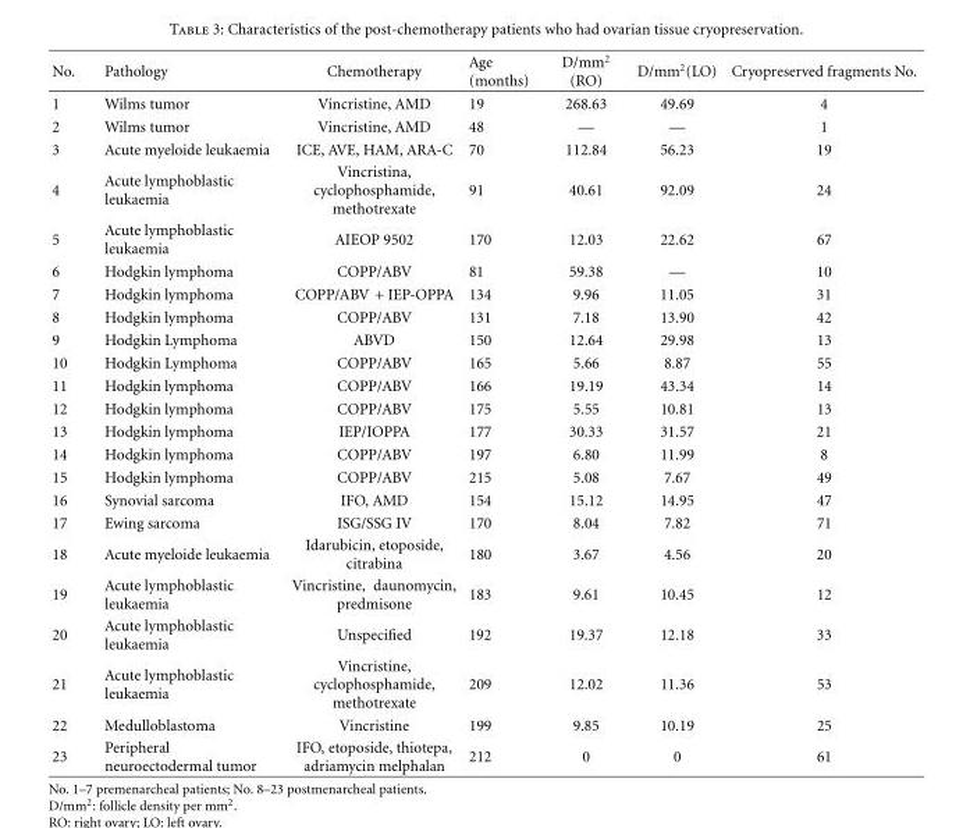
<table><thead><tr><td>No.</td><td>Pathology</td><td>Chemotherapy</td><td>Age (months)</td><td>D/mm<sup>2</sup> (RO)</td><td>D/mm<sup>2</sup>(LO)</td><td>Cryopreserved fragments No.</td></tr></thead><tbody><tr><td>1</td><td>Wilms tumor</td><td>Vincristine, AMD</td><td>19</td><td>268.63</td><td>49.69</td><td>4</td></tr><tr><td>2</td><td>Wilms tumor</td><td>Vincristine, AMD</td><td>48</td><td>—</td><td>—</td><td>1</td></tr><tr><td>3</td><td>Acute myeloide leukaemia</td><td>ICE, AVE, HAM, ARA-C</td><td>70</td><td>112.84</td><td>56.23</td><td>19</td></tr><tr><td>4</td><td>Acute lymphoblastic leukaemia</td><td>Vincristina, cyclophosphamide, methotrexate</td><td>91</td><td>40.61</td><td>92.09</td><td>24</td></tr><tr><td>5</td><td>Acute lymphoblastic leukaemia</td><td>AIEOP 9502</td><td>170</td><td>12.03</td><td>22.62</td><td>67</td></tr><tr><td>6</td><td>Hodgkin lymphoma</td><td>COPP/ABV</td><td>81</td><td>59.38</td><td>—</td><td>10</td></tr><tr><td>7</td><td>Hodgkin lymphoma</td><td>COPP/ABV + IEP-OPPA</td><td>134</td><td>9.96</td><td>11.05</td><td>31</td></tr><tr><td>8</td><td>Hodgkin lymphoma</td><td>COPP/ABV</td><td>131</td><td>7.18</td><td>13.90</td><td>42</td></tr><tr><td>9</td><td>Hodgkin Lymphoma</td><td>ABVD</td><td>150</td><td>12.64</td><td>29.98</td><td>13</td></tr><tr><td>10</td><td>Hodgkin Lymphoma</td><td>COPP/ABV</td><td>165</td><td>5.66</td><td>8.87</td><td>55</td></tr><tr><td>11</td><td>Hodgkin lymphoma</td><td>COPP/ABV</td><td>166</td><td>19.19</td><td>43.34</td><td>14</td></tr><tr><td>12</td><td>Hodgkin lymphoma</td><td>COPP/ABV</td><td>175</td><td>5.55</td><td>10.81</td><td>13</td></tr><tr><td>13</td><td>Hodgkin lymphoma</td><td>IEP/IOPPA</td><td>177</td><td>30.33</td><td>31.57</td><td>21</td></tr><tr><td>14</td><td>Hodgkin lymphoma</td><td>COPP/ABV</td><td>197</td><td>6.80</td><td>11.99</td><td>8</td></tr><tr><td>15</td><td>Hodgkin lymphoma</td><td>COPP/ABV</td><td>215</td><td>5.08</td><td>7.67</td><td>49</td></tr><tr><td>16</td><td>Synovial sarcoma</td><td>IFO, AMD</td><td>154</td><td>15.12</td><td>14.95</td><td>47</td></tr><tr><td>17</td><td>Ewing sarcoma</td><td>ISG/SSG IV</td><td>170</td><td>8.04</td><td>7.82</td><td>71</td></tr><tr><td>18</td><td>Acute myeloide leukaemia</td><td>Idarubicin, etoposide, citrabina</td><td>180</td><td>3.67</td><td>4.56</td><td>20</td></tr><tr><td>19</td><td>Acute lymphoblastic leukaemia</td><td>Vincristine, daunomycin, predmisone</td><td>183</td><td>9.61</td><td>10.45</td><td>12</td></tr><tr><td>20</td><td>Acute lymphoblastic leukaemia</td><td>Unspecified</td><td>192</td><td>19.37</td><td>12.18</td><td>33</td></tr><tr><td>21</td><td>Acute lymphoblastic leukaemia</td><td>Vincristine, cyclophosphamide, methotrexate</td><td>209</td><td>12.02</td><td>11.36</td><td>53</td></tr><tr><td>22</td><td>Medulloblastoma</td><td>Vincristine</td><td>199</td><td>9.85</td><td>10.19</td><td>25</td></tr><tr><td>23</td><td>Peripheral neuroectodermal tumor</td><td>IFO, etoposide, thiotepa, adriamycin melphalan</td><td>212</td><td>0</td><td>0</td><td>61</td></tr></tbody></table>